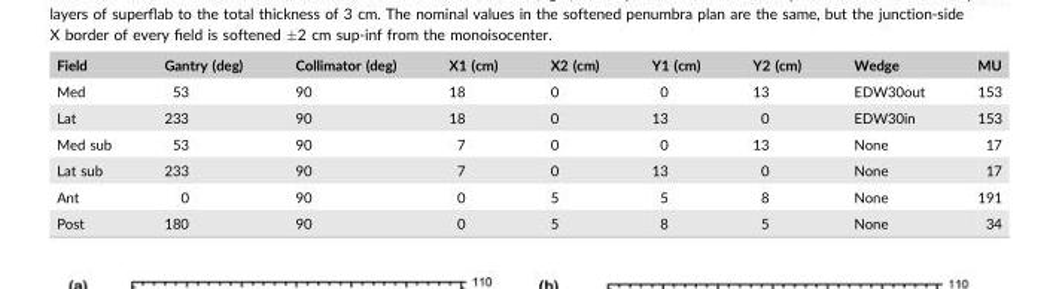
<table><thead><tr><td>Field</td><td>Gantry (deg)</td><td>Collimator (deg)</td><td>X1 (cm)</td><td>X2 (cm)</td><td>Y1 (cm)</td><td>Y2 (cm)</td><td>Wedge</td><td>MU</td></tr></thead><tbody><tr><td>Med</td><td>53</td><td>90</td><td>18</td><td>0</td><td>0</td><td>13</td><td>EDW30out</td><td>153</td></tr><tr><td>Lat</td><td>233</td><td>90</td><td>18</td><td>0</td><td>13</td><td>0</td><td>EDW30in</td><td>153</td></tr><tr><td>Med sub</td><td>53</td><td>90</td><td>7</td><td>0</td><td>0</td><td>13</td><td>None</td><td>17</td></tr><tr><td>Lat sub</td><td>233</td><td>90</td><td>7</td><td>0</td><td>13</td><td>0</td><td>None</td><td>17</td></tr><tr><td>Ant</td><td>0</td><td>90</td><td>0</td><td>5</td><td>5</td><td>8</td><td>None</td><td>191</td></tr><tr><td>Post</td><td>180</td><td>90</td><td>0</td><td>5</td><td>8</td><td>5</td><td>None</td><td>34</td></tr></tbody></table>